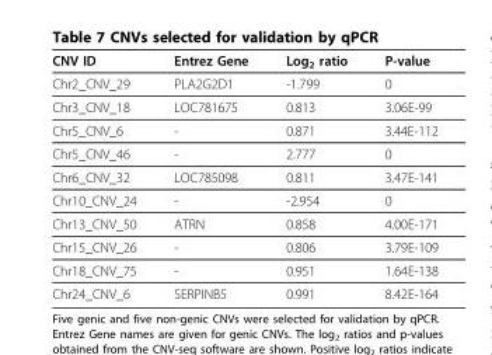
<table><thead><tr><td>CNV ID</td><td>Entrez Gene</td><td>Log<sub>2</sub> ratio</td><td>P-value</td></tr></thead><tbody><tr><td>Chr2_CNV_29</td><td>PLA2G2D1</td><td>-1.799</td><td>0</td></tr><tr><td>Chr3_CNV_18</td><td>LOC781675</td><td>0.813</td><td>3.06E-99</td></tr><tr><td>Chr5_CNV_6</td><td>-</td><td>0.871</td><td>3.44E-112</td></tr><tr><td>Chr5_CNV_46</td><td>-</td><td>2.777</td><td>0</td></tr><tr><td>Chr6_CNV_32</td><td>LOC785098</td><td>0.811</td><td>3.47E-141</td></tr><tr><td>Chr10_CNV_24</td><td>-</td><td>-2.954</td><td>0</td></tr><tr><td>Chr13_CNV_50</td><td>ATRN</td><td>0.858</td><td>4.00E-171</td></tr><tr><td>Chr15_CNV_26</td><td>-</td><td>0.806</td><td>3.79E-109</td></tr><tr><td>Chr18_CNV_75</td><td>-</td><td>0.951</td><td>1.64E-138</td></tr><tr><td>Chr24_CNV_6</td><td>SERPINB5</td><td>0.991</td><td>8.42E-164</td></tr></tbody></table>